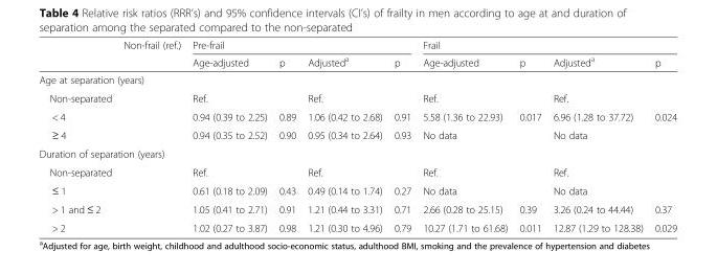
<table><thead><tr><td rowspan="2"></td><td rowspan="2">Non-frail (ref.)</td><td colspan="4">Pre-frail</td><td colspan="4">Frail</td></tr><tr><td>Age-adjusted</td><td>p</td><td>Adjusted<sup>a</sup></td><td>p</td><td>Age-adjusted</td><td>p</td><td>Adjusted<sup>a</sup></td><td>p</td></tr></thead><tbody><tr><td colspan="10">Age at separation (years)</td></tr><tr><td>Non-separated</td><td></td><td>Ref.</td><td></td><td>Ref.</td><td></td><td>Ref.</td><td></td><td>Ref.</td><td></td></tr><tr><td>&lt; 4</td><td></td><td>0.94 (0.39 to 2.25)</td><td>0.89</td><td>1.06 (0.42 to 2.68)</td><td>0.91</td><td>5.58 (1.36 to 22.93)</td><td>0.017</td><td>6.96 (1.28 to 37.72)</td><td>0.024</td></tr><tr><td>≥ 4</td><td></td><td>0.94 (0.35 to 2.52)</td><td>0.90</td><td>0.95 (0.34 to 2.64)</td><td>0.93</td><td>No data</td><td></td><td>No data</td><td></td></tr><tr><td colspan="10">Duration of separation (years)</td></tr><tr><td>Non-separated</td><td></td><td>Ref.</td><td></td><td>Ref.</td><td></td><td>Ref.</td><td></td><td>Ref.</td><td></td></tr><tr><td>≤ 1</td><td></td><td>0.61 (0.18 to 2.09)</td><td>0.43</td><td>0.49 (0.14 to 1.74)</td><td>0.27</td><td>No data</td><td></td><td>No data</td><td></td></tr><tr><td>&gt; 1 and ≤ 2</td><td></td><td>1.05 (0.41 to 2.71)</td><td>0.91</td><td>1.21 (0.44 to 3.31)</td><td>0.71</td><td>2.66 (0.28 to 25.15)</td><td>0.39</td><td>3.26 (0.24 to 44.44)</td><td>0.37</td></tr><tr><td>&gt; 2</td><td></td><td>1.02 (0.27 to 3.87)</td><td>0.98</td><td>1.21 (0.30 to 4.96)</td><td>0.79</td><td>10.27 (1.71 to 61.68)</td><td>0.011</td><td>12.87 (1.29 to 128.38)</td><td>0.029</td></tr></tbody></table>